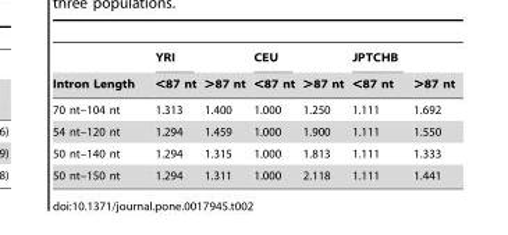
<table><thead><tr><td rowspan="2">Intron Length</td><td rowspan="2">YRI &lt;87 nt</td><td rowspan="2">&gt;87 nt</td><td rowspan="2">CEU &lt;87 nt</td><td rowspan="2">&gt;87 nt</td><td rowspan="2">JPTCHB &lt;87 nt</td><td rowspan="2">&gt;87 nt</td></tr><tr></tr></thead><tbody><tr><td>70 nt–104 nt</td><td>1.313</td><td>1.400</td><td>1.000</td><td>1.250</td><td>1.111</td><td>1.692</td></tr><tr><td>54 nt–120 nt</td><td>1.294</td><td>1.459</td><td>1.000</td><td>1.900</td><td>1.111</td><td>1.550</td></tr><tr><td>50 nt–140 nt</td><td>1.294</td><td>1.315</td><td>1.000</td><td>1.813</td><td>1.111</td><td>1.333</td></tr><tr><td>50 nt–150 nt</td><td>1.294</td><td>1.311</td><td>1.000</td><td>2.118</td><td>1.111</td><td>1.441</td></tr></tbody></table>